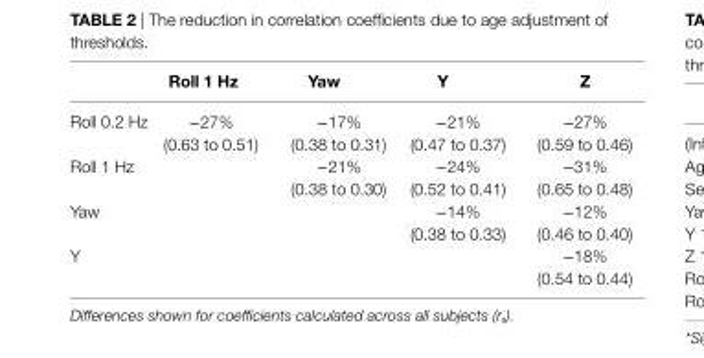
<table><thead><tr><td></td><td>roll 1 hz</td><td>Yaw</td><td>Y</td><td>Z</td></tr></thead><tbody><tr><td>Roll 0.2 Hz</td><td>−27% (0.63 to 0.51)</td><td>−17% (0.38 to 0.31)</td><td>−21% (0.47 to 0.37)</td><td>−27% (0.59 to 0.46)</td></tr><tr><td>Roll 1 Hz</td><td></td><td>−21% (0.38 to 0.30)</td><td>−24% (0.52 to 0.41)</td><td>−31% (0.65 to 0.48)</td></tr><tr><td>Yaw</td><td></td><td></td><td>−14% (0.38 to 0.33)</td><td>−12% (0.46 to 0.40)</td></tr><tr><td>Y</td><td></td><td></td><td></td><td>−18% (0.54 to 0.44)</td></tr></tbody></table>